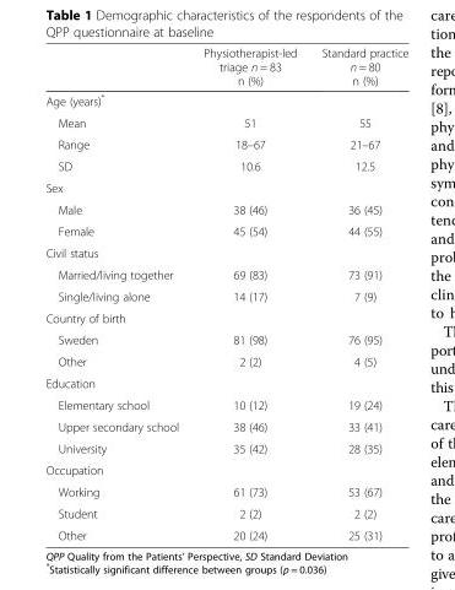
<table><thead><tr><td></td><td>Physiotherapist-led triage n = 83 n (%)</td><td>Standard practice n = 80 n (%)</td></tr></thead><tbody><tr><td colspan="3">Age (years)*</td></tr><tr><td>Mean</td><td>51</td><td>55</td></tr><tr><td>Range</td><td>18–67</td><td>21–67</td></tr><tr><td>SD</td><td>10.6</td><td>12.5</td></tr><tr><td colspan="3">Sex</td></tr><tr><td>Male</td><td>38 (46)</td><td>36 (45)</td></tr><tr><td>Female</td><td>45 (54)</td><td>44 (55)</td></tr><tr><td colspan="3">Civil status</td></tr><tr><td>Married/living together</td><td>69 (83)</td><td>73 (91)</td></tr><tr><td>Single/living alone</td><td>14 (17)</td><td>7 (9)</td></tr><tr><td colspan="3">Country of birth</td></tr><tr><td>Sweden</td><td>81 (98)</td><td>76 (95)</td></tr><tr><td>Other</td><td>2 (2)</td><td>4 (5)</td></tr><tr><td colspan="3">Education</td></tr><tr><td>Elementary school</td><td>10 (12)</td><td>19 (24)</td></tr><tr><td>Upper secondary school</td><td>38 (46)</td><td>33 (41)</td></tr><tr><td>University</td><td>35 (42)</td><td>28 (35)</td></tr><tr><td colspan="3">Occupation</td></tr><tr><td>Working</td><td>61 (73)</td><td>53 (67)</td></tr><tr><td>Student</td><td>2 (2)</td><td>2 (2)</td></tr><tr><td>Other</td><td>20 (24)</td><td>25 (31)</td></tr></tbody></table>